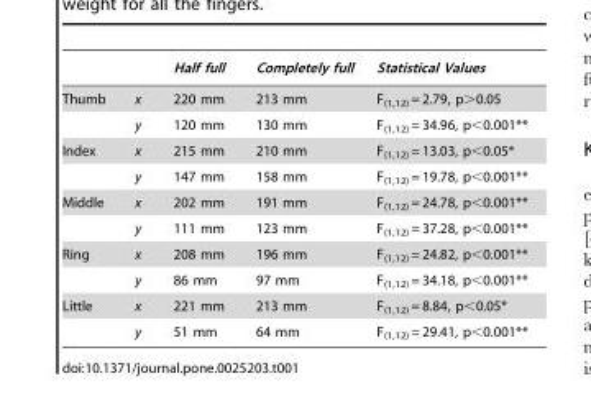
<table><thead><tr><td></td><td></td><td>Half full</td><td>Completely full</td><td>Statistical Values</td></tr></thead><tbody><tr><td rowspan="2">Thumb</td><td>x</td><td>220 mm</td><td>213 mm</td><td>F<sub>(1,12)</sub> = 2.79, p&gt;0.05</td></tr><tr><td>y</td><td>120 mm</td><td>130 mm</td><td>F<sub>(1,12)</sub> = 34.96, p&lt;0.001**</td></tr><tr><td rowspan="2">Index</td><td>x</td><td>215 mm</td><td>210 mm</td><td>F<sub>(1,12)</sub> = 13.03, p&lt;0.05*</td></tr><tr><td>y</td><td>147 mm</td><td>158 mm</td><td>F<sub>(1,12)</sub> = 19.78, p&lt;0.001**</td></tr><tr><td rowspan="2">Middle</td><td>x</td><td>202 mm</td><td>191 mm</td><td>F<sub>(1,12)</sub> = 24.78, p&lt;0.001**</td></tr><tr><td>y</td><td>111 mm</td><td>123 mm</td><td>F<sub>(1,12)</sub> = 37.28, p&lt;0.001**</td></tr><tr><td rowspan="2">Ring</td><td>x</td><td>208 mm</td><td>196 mm</td><td>F<sub>(1,12)</sub> = 24.82, p&lt;0.001**</td></tr><tr><td>y</td><td>86 mm</td><td>97 mm</td><td>F<sub>(1,12)</sub> = 34.18, p&lt;0.001**</td></tr><tr><td rowspan="2">Little</td><td>x</td><td>221 mm</td><td>213 mm</td><td>F<sub>(1,12)</sub> = 8.84, p&lt;0.05*</td></tr><tr><td>y</td><td>51 mm</td><td>64 mm</td><td>F<sub>(1,12)</sub> = 29.41, p&lt;0.001**</td></tr></tbody></table>